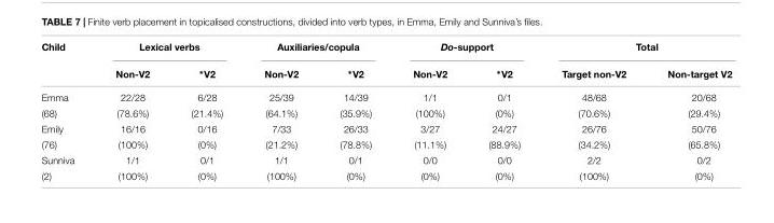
<table><thead><tr><td rowspan="2">Child</td><td colspan="2">Lexical verbs</td><td colspan="2">Auxiliaries/copula</td><td colspan="2">Do-support</td><td colspan="2">Total</td></tr><tr><td>Non-V2</td><td>∗V2</td><td>Non-V2</td><td>∗V2</td><td>Non-V2</td><td>∗V2</td><td>Target non-V2</td><td>Non-target V2</td></tr></thead><tbody><tr><td>Emma</td><td>22/28</td><td>6/28</td><td>25/39</td><td>14/39</td><td>1/1</td><td>0/1</td><td>48/68</td><td>20/68</td></tr><tr><td>(68)</td><td>(78.6%)</td><td>(21.4%)</td><td>(64.1%)</td><td>(35.9%)</td><td>(100%)</td><td>(0%)</td><td>(70.6%)</td><td>(29.4%)</td></tr><tr><td>Emily</td><td>16/16</td><td>0/16</td><td>7/33</td><td>26/33</td><td>3/27</td><td>24/27</td><td>26/76</td><td>50/76</td></tr><tr><td>(76)</td><td>(100%)</td><td>(0%)</td><td>(21.2%)</td><td>(78.8%)</td><td>(11.1%)</td><td>(88.9%)</td><td>(34.2%)</td><td>(65.8%)</td></tr><tr><td>Sunniva</td><td>1/1</td><td>0/1</td><td>1/1</td><td>0/1</td><td>0/0</td><td>0/0</td><td>2/2</td><td>0/2</td></tr><tr><td>(2)</td><td>(100%)</td><td>(0%)</td><td>(100%)</td><td>(0%)</td><td>(0%)</td><td>(0%)</td><td>(100%)</td><td>(0%)</td></tr></tbody></table>